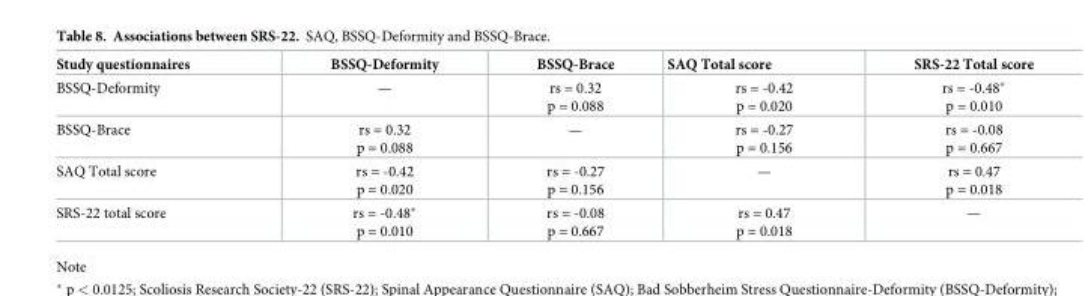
<table><thead><tr><td>Study questionnaires</td><td>BSSQ-Deformity</td><td>BSSQ-Brace</td><td>SAQ Total score</td><td>SRS-22 Total score</td></tr></thead><tbody><tr><td>BSSQ-Deformity</td><td>—</td><td>rs = 0.32 p = 0.088</td><td>rs = -0.42 p = 0.020</td><td>rs = -0.48* p = 0.010</td></tr><tr><td>BSSQ-Brace</td><td>rs = 0.32 p = 0.088</td><td>—</td><td>rs = -0.27 p = 0.156</td><td>rs = -0.08 p = 0.667</td></tr><tr><td>SAQ Total score</td><td>rs = -0.42 p = 0.020</td><td>rs = -0.27 p = 0.156</td><td>—</td><td>rs = 0.47 p = 0.018</td></tr><tr><td>SRS-22 total score</td><td>rs = -0.48* p = 0.010</td><td>rs = -0.08 p = 0.667</td><td>rs = 0.47 p = 0.018</td><td>—</td></tr></tbody></table>